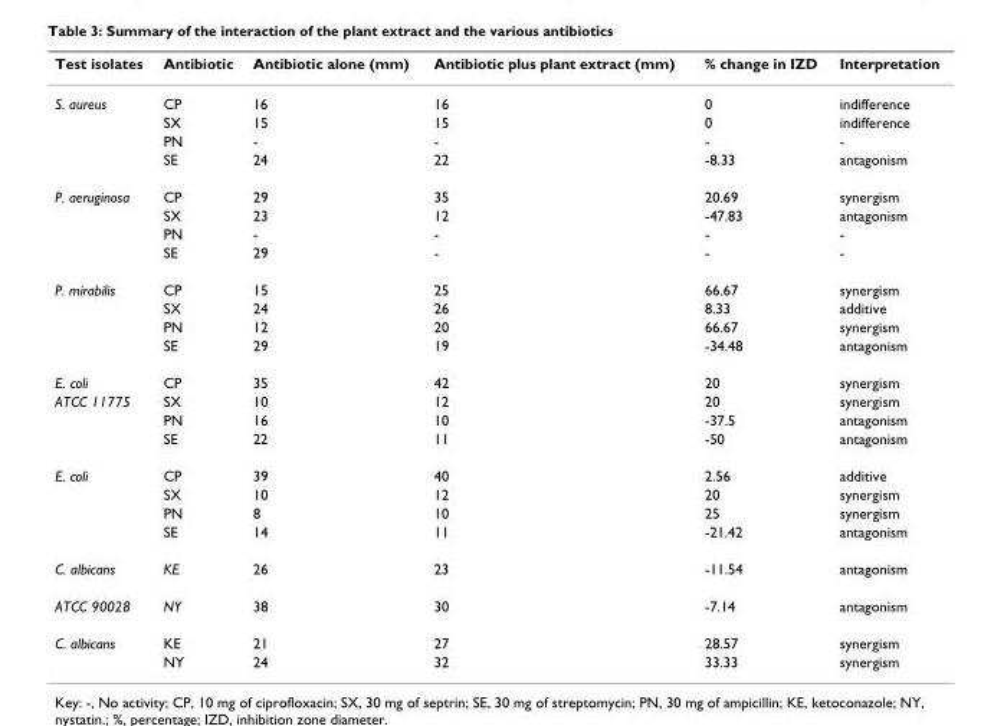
<table><thead><tr><td>Test isolates</td><td>Antibiotic</td><td>Antibiotic alone (mm)</td><td>Antibiotic plus plant extract (mm)</td><td>% change in IZD</td><td>Interpretation</td></tr></thead><tbody><tr><td rowspan="4">S. aureus</td><td>CP</td><td>16</td><td>16</td><td>0</td><td>indifference</td></tr><tr><td>SX</td><td>15</td><td>15</td><td>0</td><td>indifference</td></tr><tr><td>PN</td><td>-</td><td>-</td><td>-</td><td>-</td></tr><tr><td>SE</td><td>24</td><td>22</td><td>-8.33</td><td>antagonism</td></tr><tr><td rowspan="4">P. aeruginosa</td><td>CP</td><td>29</td><td>35</td><td>20.69</td><td>synergism</td></tr><tr><td>SX</td><td>23</td><td>12</td><td>-47.83</td><td>antagonism</td></tr><tr><td>PN</td><td>-</td><td>-</td><td>-</td><td>-</td></tr><tr><td>SE</td><td>29</td><td>-</td><td>-</td><td>-</td></tr><tr><td rowspan="4">P. mirabilis</td><td>CP</td><td>15</td><td>25</td><td>66.67</td><td>synergism</td></tr><tr><td>SX</td><td>24</td><td>26</td><td>8.33</td><td>additive</td></tr><tr><td>PN</td><td>12</td><td>20</td><td>66.67</td><td>synergism</td></tr><tr><td>SE</td><td>29</td><td>19</td><td>-34.48</td><td>antagonism</td></tr><tr><td>E. coli</td><td>CP</td><td>35</td><td>42</td><td>20</td><td>synergism</td></tr><tr><td rowspan="3">ATCC 11775</td><td>SX</td><td>10</td><td>12</td><td>20</td><td>synergism</td></tr><tr><td>PN</td><td>16</td><td>10</td><td>-37.5</td><td>antagonism</td></tr><tr><td>SE</td><td>22</td><td>11</td><td>-50</td><td>antagonism</td></tr><tr><td rowspan="4">E. coli</td><td>CP</td><td>39</td><td>40</td><td>2.56</td><td>additive</td></tr><tr><td>SX</td><td>10</td><td>12</td><td>20</td><td>synergism</td></tr><tr><td>PN</td><td>8</td><td>10</td><td>25</td><td>synergism</td></tr><tr><td>SE</td><td>14</td><td>11</td><td>-21.42</td><td>antagonism</td></tr><tr><td>C. albicans</td><td>KE</td><td>26</td><td>23</td><td>-11.54</td><td>antagonism</td></tr><tr><td>ATCC 90028</td><td>NY</td><td>38</td><td>30</td><td>-7.14</td><td>antagonism</td></tr><tr><td rowspan="2">C. albicans</td><td>KE</td><td>21</td><td>27</td><td>28.57</td><td>synergism</td></tr><tr><td>NY</td><td>24</td><td>32</td><td>33.33</td><td>synergism</td></tr></tbody></table>